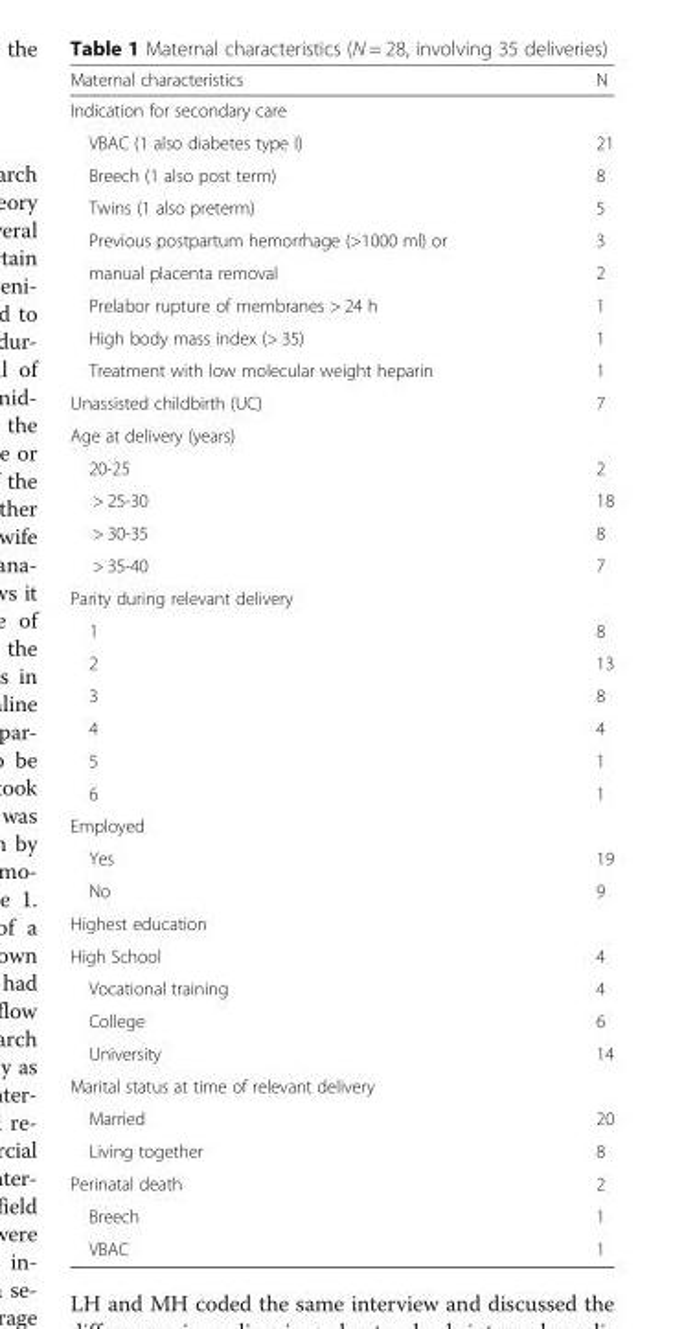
<table><thead><tr><td>Maternal characteristics</td><td>N</td></tr></thead><tbody><tr><td colspan="2">Indication for secondary care</td></tr><tr><td>VBAC (1 also diabetes type I)</td><td>21</td></tr><tr><td>Breech (1 also post term)</td><td>8</td></tr><tr><td>Twins (1 also preterm)</td><td>5</td></tr><tr><td>Previous postpartum hemorrhage (&gt;1000 ml) or</td><td>3</td></tr><tr><td>manual placenta removal</td><td>2</td></tr><tr><td>Prelabor rupture of membranes &gt; 24 h</td><td>1</td></tr><tr><td>High body mass index (&gt; 35)</td><td>1</td></tr><tr><td>Treatment with low molecular weight heparin</td><td>1</td></tr><tr><td>Unassisted childbirth (UC)</td><td>7</td></tr><tr><td colspan="2">Age at delivery (years)</td></tr><tr><td>20-25</td><td>2</td></tr><tr><td>&gt; 25-30</td><td>18</td></tr><tr><td>&gt; 30-35</td><td>8</td></tr><tr><td>&gt; 35-40</td><td>7</td></tr><tr><td colspan="2">Parity during relevant delivery</td></tr><tr><td>1</td><td>8</td></tr><tr><td>2</td><td>13</td></tr><tr><td>3</td><td>8</td></tr><tr><td>4</td><td>4</td></tr><tr><td>5</td><td>1</td></tr><tr><td>6</td><td>1</td></tr><tr><td colspan="2">Employed</td></tr><tr><td>Yes</td><td>19</td></tr><tr><td>No</td><td>9</td></tr><tr><td colspan="2">Highest education</td></tr><tr><td>High School</td><td>4</td></tr><tr><td>Vocational training</td><td>4</td></tr><tr><td>College</td><td>6</td></tr><tr><td>University</td><td>14</td></tr><tr><td colspan="2">Marital status at time of relevant delivery</td></tr><tr><td>Married</td><td>20</td></tr><tr><td>Living together</td><td>8</td></tr><tr><td>Perinatal death</td><td>2</td></tr><tr><td>Breech</td><td>1</td></tr><tr><td>VBAC</td><td>1</td></tr></tbody></table>